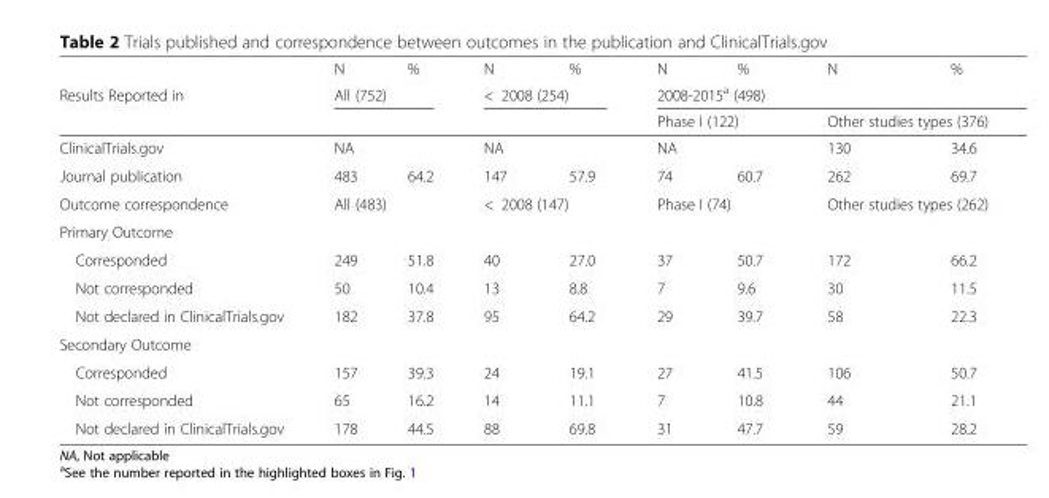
<table><thead><tr><td rowspan="3">Results Reported in</td><td>N</td><td>%</td><td>N</td><td>%</td><td>N</td><td>%</td><td>N</td><td>%</td></tr><tr><td colspan="2">All (752)</td><td colspan="2">&lt; 2008 (254)</td><td colspan="4">2008-2015<sup>a</sup> (498)</td></tr><tr><td></td><td></td><td></td><td></td><td colspan="2">Phase I (122)</td><td colspan="2">Other studies types (376)</td></tr></thead><tbody><tr><td>ClinicalTrials.gov</td><td colspan="2">NA</td><td colspan="2">NA</td><td colspan="2">NA</td><td>130</td><td>34.6</td></tr><tr><td>Journal publication</td><td>483</td><td>64.2</td><td>147</td><td>57.9</td><td>74</td><td>60.7</td><td>262</td><td>69.7</td></tr><tr><td>Outcome correspondence</td><td colspan="2">All (483)</td><td colspan="2">&lt; 2008 (147)</td><td colspan="2">Phase I (74)</td><td colspan="2">Other studies types (262)</td></tr><tr><td colspan="9">Primary Outcome</td></tr><tr><td>Corresponded</td><td>249</td><td>51.8</td><td>40</td><td>27.0</td><td>37</td><td>50.7</td><td>172</td><td>66.2</td></tr><tr><td>Not corresponded</td><td>50</td><td>10.4</td><td>13</td><td>8.8</td><td>7</td><td>9.6</td><td>30</td><td>11.5</td></tr><tr><td>Not declared in ClinicalTrials.gov</td><td>182</td><td>37.8</td><td>95</td><td>64.2</td><td>29</td><td>39.7</td><td>58</td><td>22.3</td></tr><tr><td colspan="9">Secondary Outcome</td></tr><tr><td>Corresponded</td><td>157</td><td>39.3</td><td>24</td><td>19.1</td><td>27</td><td>41.5</td><td>106</td><td>50.7</td></tr><tr><td>Not corresponded</td><td>65</td><td>16.2</td><td>14</td><td>11.1</td><td>7</td><td>10.8</td><td>44</td><td>21.1</td></tr><tr><td>Not declared in ClinicalTrials.gov</td><td>178</td><td>44.5</td><td>88</td><td>69.8</td><td>31</td><td>47.7</td><td>59</td><td>28.2</td></tr></tbody></table>